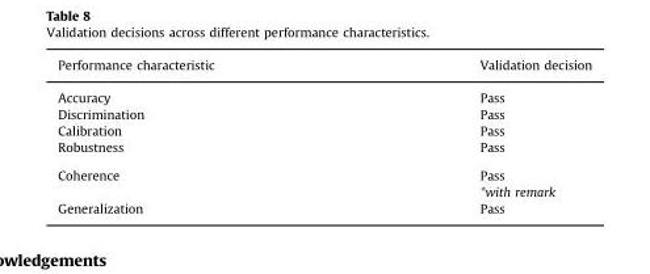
<table><thead><tr><td>Performance characteristic</td><td>Validation decision</td></tr></thead><tbody><tr><td>Accuracy</td><td>Pass</td></tr><tr><td>Discrimination</td><td>Pass</td></tr><tr><td>Calibration</td><td>Pass</td></tr><tr><td>Robustness</td><td>Pass</td></tr><tr><td rowspan="2">Coherence</td><td>Pass</td></tr><tr><td>*with remark</td></tr><tr><td>Generalization</td><td>Pass</td></tr></tbody></table>